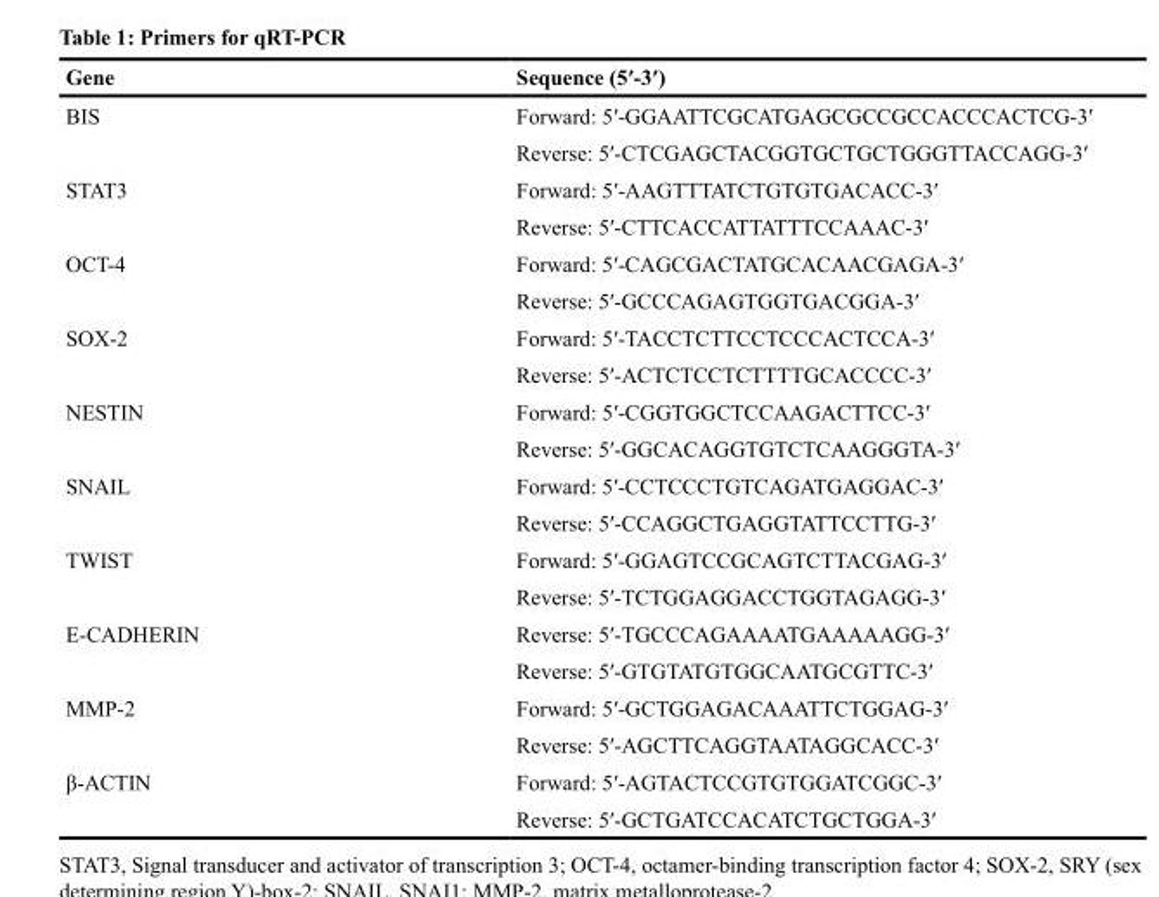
<table><thead><tr><td>Gene</td><td>Sequence (5′-3′)</td></tr></thead><tbody><tr><td rowspan="2">BIS</td><td>Forward: 5′-GGAATTCGCATGAGCGCCGCCACCCACTCG-3′</td></tr><tr><td>Reverse: 5′-CTCGAGCTACGGTGCTGCTGGGTTACCAGG-3′</td></tr><tr><td rowspan="2">STAT3</td><td>Forward: 5′-AAGTTTATCTGTGTGACACC-3′</td></tr><tr><td>Reverse: 5′-CTTCACCATTATTTCCAAAC-3′</td></tr><tr><td rowspan="2">OCT-4</td><td>Forward: 5′-CAGCGACTATGCACAACGAGA-3′</td></tr><tr><td>Reverse: 5′-GCCCAGAGTGGTGACGGA-3′</td></tr><tr><td rowspan="2">SOX-2</td><td>Forward: 5′-TACCTCTTCCTCCCACTCCA-3′</td></tr><tr><td>Reverse: 5′-ACTCTCCTCTTTTGCACCCC-3′</td></tr><tr><td rowspan="2">NESTIN</td><td>Forward: 5′-CGGTGGCTCCAAGACTTCC-3′</td></tr><tr><td>Reverse: 5′-GGCACAGGTGTCTCAAGGGTA-3′</td></tr><tr><td rowspan="2">SNAIL</td><td>Forward: 5′-CCTCCCTGTCAGATGAGGAC-3′</td></tr><tr><td>Reverse: 5′-CCAGGCTGAGGTATTCCTTG-3′</td></tr><tr><td rowspan="2">TWIST</td><td>Forward: 5′-GGAGTCCGCAGTCTTACGAG-3′</td></tr><tr><td>Reverse: 5′-TCTGGAGGACCTGGTAGAGG-3′</td></tr><tr><td rowspan="2">E-CADHERIN</td><td>Reverse: 5′-TGCCCAGAAAATGAAAAAGG-3′</td></tr><tr><td>Reverse: 5′-GTGTATGTGGCAATGCGTTC-3′</td></tr><tr><td rowspan="2">MMP-2</td><td>Forward: 5′-GCTGGAGACAAATTCTGGAG-3′</td></tr><tr><td>Reverse: 5′-AGCTTCAGGTAATAGGCACC-3′</td></tr><tr><td rowspan="2">β-ACTIN</td><td>Forward: 5′-AGTACTCCGTGTGGATCGGC-3′</td></tr><tr><td>Reverse: 5′-GCTGATCCACATCTGCTGGA-3′</td></tr></tbody></table>